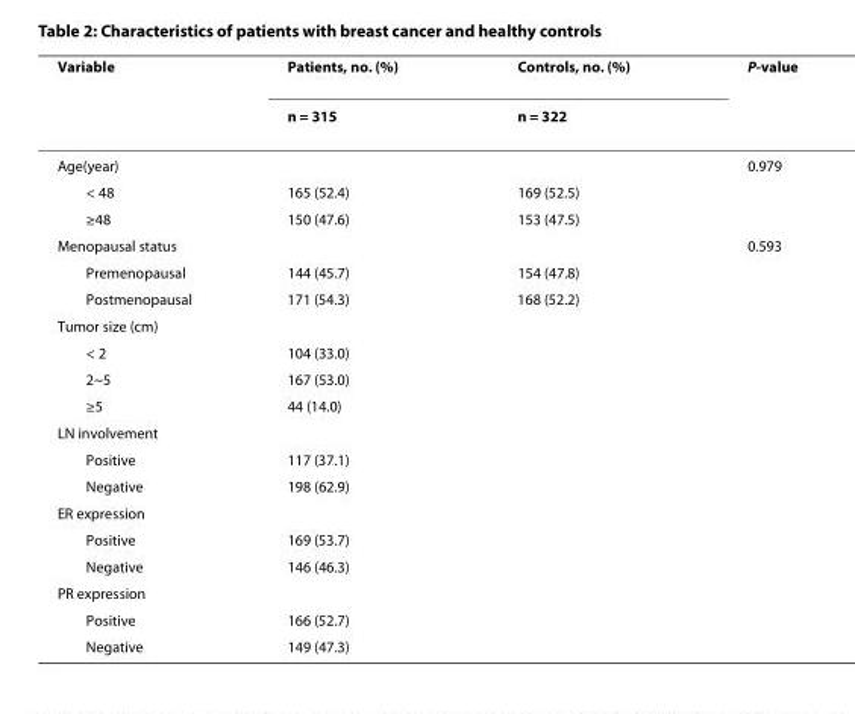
<table><thead><tr><td rowspan="2">Variable</td><td rowspan="2">Patients, no. (%) n = 315</td><td rowspan="2">Controls, no. (%) n = 322</td><td rowspan="2">P-value</td></tr><tr></tr></thead><tbody><tr><td>Age(year)</td><td></td><td></td><td>0.979</td></tr><tr><td>&lt; 48</td><td>165 (52.4)</td><td>169 (52.5)</td><td></td></tr><tr><td>≥48</td><td>150 (47.6)</td><td>153 (47.5)</td><td></td></tr><tr><td>Menopausal status</td><td></td><td></td><td>0.593</td></tr><tr><td>Premenopausal</td><td>144 (45.7)</td><td>154 (47.8)</td><td></td></tr><tr><td>Postmenopausal</td><td>171 (54.3)</td><td>168 (52.2)</td><td></td></tr><tr><td colspan="4">Tumor size (cm)</td></tr><tr><td>&lt; 2</td><td>104 (33.0)</td><td></td><td></td></tr><tr><td>2~5</td><td>167 (53.0)</td><td></td><td></td></tr><tr><td>≥5</td><td>44 (14.0)</td><td></td><td></td></tr><tr><td colspan="4">LN involvement</td></tr><tr><td>Positive</td><td>117 (37.1)</td><td></td><td></td></tr><tr><td>Negative</td><td>198 (62.9)</td><td></td><td></td></tr><tr><td colspan="4">ER expression</td></tr><tr><td>Positive</td><td>169 (53.7)</td><td></td><td></td></tr><tr><td>Negative</td><td>146 (46.3)</td><td></td><td></td></tr><tr><td colspan="4">PR expression</td></tr><tr><td>Positive</td><td>166 (52.7)</td><td></td><td></td></tr><tr><td>Negative</td><td>149 (47.3)</td><td></td><td></td></tr></tbody></table>